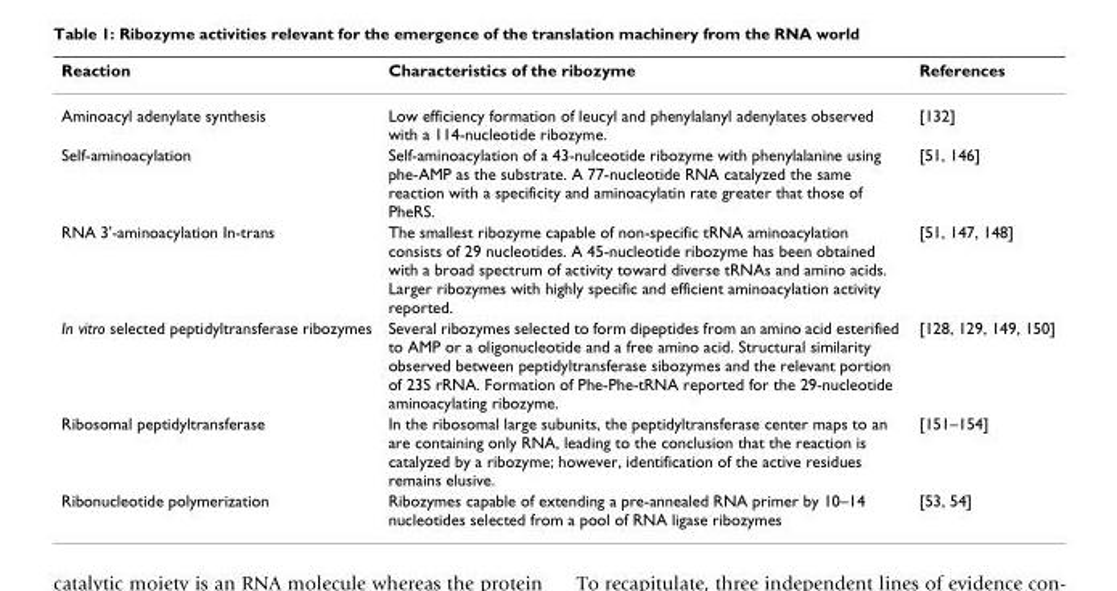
<table><thead><tr><td>Reaction</td><td>Characteristics of the ribozyme</td><td>References</td></tr></thead><tbody><tr><td>Aminoacyl adenylate synthesis</td><td>Low efficiency formation of leucyl and phenylalanyl adenylates observed with a 114-nucleotide ribozyme.</td><td>[132]</td></tr><tr><td>Self-aminoacylation</td><td>Self-aminoacylation of a 43-nulceotide ribozyme with phenylalanine using phe-AMP as the substrate. A 77-nucleotide RNA catalyzed the same reaction with a specificity and aminoacylatin rate greater that those of PheRS.</td><td>[51, 146]</td></tr><tr><td>RNA 3&#x27;-aminoacylation In-trans</td><td>The smallest ribozyme capable of non-specific tRNA aminoacylation consists of 29 nucleotides. A 45-nucleotide ribozyme has been obtained with a broad spectrum of activity toward diverse tRNAs and amino acids. Larger ribozymes with highly specific and efficient aminoacylation activity reported.</td><td>[51, 147, 148]</td></tr><tr><td>In vitro selected peptidyltransferase ribozymes</td><td>Several ribozymes selected to form dipeptides from an amino acid esterified to AMP or a oligonucleotide and a free amino acid. Structural similarity observed between peptidyltransferase sibozymes and the relevant portion of 23S rRNA. Formation of Phe-Phe-tRNA reported for the 29-nucleotide aminoacylating ribozyme.</td><td>[128, 129, 149, 150]</td></tr><tr><td>Ribosomal peptidyltransferase</td><td>In the ribosomal large subunits, the peptidyltransferase center maps to an are containing only RNA, leading to the conclusion that the reaction is catalyzed by a ribozyme; however, identification of the active residues remains elusive.</td><td>[151–154]</td></tr><tr><td>Ribonucleotide polymerization</td><td>Ribozymes capable of extending a pre-annealed RNA primer by 10–14 nucleotides selected from a pool of RNA ligase ribozymes</td><td>[53, 54]</td></tr></tbody></table>